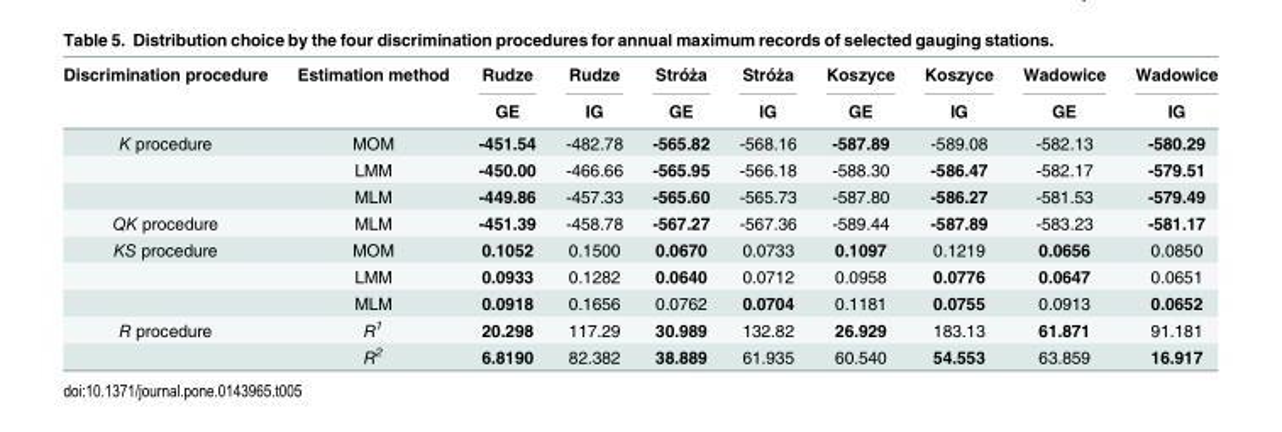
<table><thead><tr><td rowspan="2">Discrimination procedure</td><td rowspan="2">Estimation method</td><td rowspan="2">Rudze GE</td><td rowspan="2">Rudze IG</td><td rowspan="2">Stróża GE</td><td rowspan="2">Stróża IG</td><td rowspan="2">Koszyce GE</td><td rowspan="2">Koszyce IG</td><td rowspan="2">Wadowice GE</td><td rowspan="2">Wadowice IG</td></tr><tr></tr></thead><tbody><tr><td rowspan="3">K procedure</td><td>MOM</td><td>-451.54</td><td>-482.78</td><td>-565.82</td><td>-568.16</td><td>-587.89</td><td>-589.08</td><td>-582.13</td><td>-580.29</td></tr><tr><td>LMM</td><td>-450.00</td><td>-466.66</td><td>-565.95</td><td>-566.18</td><td>-588.30</td><td>-586.47</td><td>-582.17</td><td>-579.51</td></tr><tr><td>MLM</td><td>-449.86</td><td>-457.33</td><td>-565.60</td><td>-565.73</td><td>-587.80</td><td>-586.27</td><td>-581.53</td><td>-579.49</td></tr><tr><td>QK procedure</td><td>MLM</td><td>-451.39</td><td>-458.78</td><td>-567.27</td><td>-567.36</td><td>-589.44</td><td>-587.89</td><td>-583.23</td><td>-581.17</td></tr><tr><td rowspan="3">KS procedure</td><td>MOM</td><td>0.1052</td><td>0.1500</td><td>0.0670</td><td>0.0733</td><td>0.1097</td><td>0.1219</td><td>0.0656</td><td>0.0850</td></tr><tr><td>LMM</td><td>0.0933</td><td>0.1282</td><td>0.0640</td><td>0.0712</td><td>0.0958</td><td>0.0776</td><td>0.0647</td><td>0.0651</td></tr><tr><td>MLM</td><td>0.0918</td><td>0.1656</td><td>0.0762</td><td>0.0704</td><td>0.1181</td><td>0.0755</td><td>0.0913</td><td>0.0652</td></tr><tr><td rowspan="2">R procedure</td><td>R<sup>1</sup></td><td>20.298</td><td>117.29</td><td>30.989</td><td>132.82</td><td>26.929</td><td>183.13</td><td>61.871</td><td>91.181</td></tr><tr><td>R<sup>2</sup></td><td>6.8190</td><td>82.382</td><td>38.889</td><td>61.935</td><td>60.540</td><td>54.553</td><td>63.859</td><td>16.917</td></tr></tbody></table>